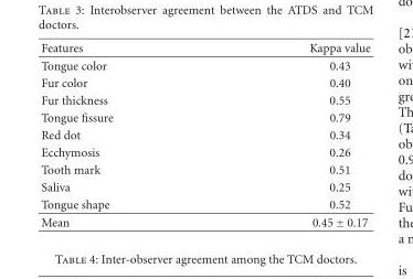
<table><thead><tr><td>Features</td><td>Kappa value</td></tr></thead><tbody><tr><td>Tongue color</td><td>0.43</td></tr><tr><td>Fur color</td><td>0.40</td></tr><tr><td>Fur thickness</td><td>0.55</td></tr><tr><td>Tongue fissure</td><td>0.79</td></tr><tr><td>Red dot</td><td>0.34</td></tr><tr><td>Ecchymosis</td><td>0.26</td></tr><tr><td>Tooth mark</td><td>0.51</td></tr><tr><td>Saliva</td><td>0.25</td></tr><tr><td>Tongue shape</td><td>0.52</td></tr><tr><td>Mean</td><td>0.45 ± 0.17</td></tr></tbody></table>